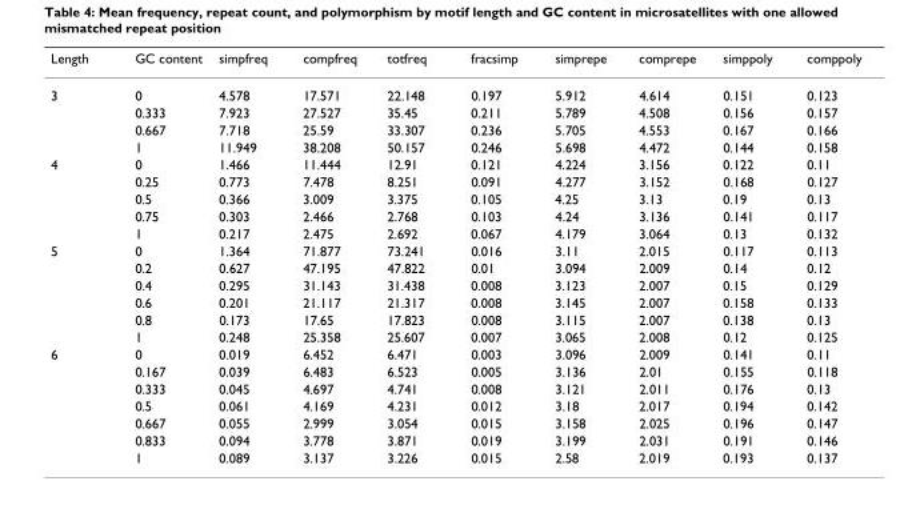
<table><thead><tr><td>Length</td><td>GC content</td><td>simpfreq</td><td>compfreq</td><td>totfreq</td><td>fracsimp</td><td>simprepe</td><td>comprepe</td><td>simppoly</td><td>comppoly</td></tr></thead><tbody><tr><td rowspan="4">3</td><td>0</td><td>4.578</td><td>17.571</td><td>22.148</td><td>0.197</td><td>5.912</td><td>4.614</td><td>0.151</td><td>0.123</td></tr><tr><td>0.333</td><td>7.923</td><td>27.527</td><td>35.45</td><td>0.211</td><td>5.789</td><td>4.508</td><td>0.156</td><td>0.157</td></tr><tr><td>0.667</td><td>7.718</td><td>25.59</td><td>33.307</td><td>0.236</td><td>5.705</td><td>4.553</td><td>0.167</td><td>0.166</td></tr><tr><td>1</td><td>11.949</td><td>38.208</td><td>50.157</td><td>0.246</td><td>5.698</td><td>4.472</td><td>0.144</td><td>0.158</td></tr><tr><td rowspan="5">4</td><td>0</td><td>1.466</td><td>11.444</td><td>12.91</td><td>0.121</td><td>4.224</td><td>3.156</td><td>0.122</td><td>0.11</td></tr><tr><td>0.25</td><td>0.773</td><td>7.478</td><td>8.251</td><td>0.091</td><td>4.277</td><td>3.152</td><td>0.168</td><td>0.127</td></tr><tr><td>0.5</td><td>0.366</td><td>3.009</td><td>3.375</td><td>0.105</td><td>4.25</td><td>3.13</td><td>0.19</td><td>0.13</td></tr><tr><td>0.75</td><td>0.303</td><td>2.466</td><td>2.768</td><td>0.103</td><td>4.24</td><td>3.136</td><td>0.141</td><td>0.117</td></tr><tr><td>1</td><td>0.217</td><td>2.475</td><td>2.692</td><td>0.067</td><td>4.179</td><td>3.064</td><td>0.13</td><td>0.132</td></tr><tr><td rowspan="6">5</td><td>0</td><td>1.364</td><td>71.877</td><td>73.241</td><td>0.016</td><td>3.11</td><td>2.015</td><td>0.117</td><td>0.113</td></tr><tr><td>0.2</td><td>0.627</td><td>47.195</td><td>47.822</td><td>0.01</td><td>3.094</td><td>2.009</td><td>0.14</td><td>0.12</td></tr><tr><td>0.4</td><td>0.295</td><td>31.143</td><td>31.438</td><td>0.008</td><td>3.123</td><td>2.007</td><td>0.15</td><td>0.129</td></tr><tr><td>0.6</td><td>0.201</td><td>21.117</td><td>21.317</td><td>0.008</td><td>3.145</td><td>2.007</td><td>0.158</td><td>0.133</td></tr><tr><td>0.8</td><td>0.173</td><td>17.65</td><td>17.823</td><td>0.008</td><td>3.115</td><td>2.007</td><td>0.138</td><td>0.13</td></tr><tr><td>1</td><td>0.248</td><td>25.358</td><td>25.607</td><td>0.007</td><td>3.065</td><td>2.008</td><td>0.12</td><td>0.125</td></tr><tr><td rowspan="7">6</td><td>0</td><td>0.019</td><td>6.452</td><td>6.471</td><td>0.003</td><td>3.096</td><td>2.009</td><td>0.141</td><td>0.11</td></tr><tr><td>0.167</td><td>0.039</td><td>6.483</td><td>6.523</td><td>0.005</td><td>3.136</td><td>2.01</td><td>0.155</td><td>0.118</td></tr><tr><td>0.333</td><td>0.045</td><td>4.697</td><td>4.741</td><td>0.008</td><td>3.121</td><td>2.011</td><td>0.176</td><td>0.13</td></tr><tr><td>0.5</td><td>0.061</td><td>4.169</td><td>4.231</td><td>0.012</td><td>3.18</td><td>2.017</td><td>0.194</td><td>0.142</td></tr><tr><td>0.667</td><td>0.055</td><td>2.999</td><td>3.054</td><td>0.015</td><td>3.158</td><td>2.025</td><td>0.196</td><td>0.147</td></tr><tr><td>0.833</td><td>0.094</td><td>3.778</td><td>3.871</td><td>0.019</td><td>3.199</td><td>2.031</td><td>0.191</td><td>0.146</td></tr><tr><td>1</td><td>0.089</td><td>3.137</td><td>3.226</td><td>0.015</td><td>2.58</td><td>2.019</td><td>0.193</td><td>0.137</td></tr></tbody></table>